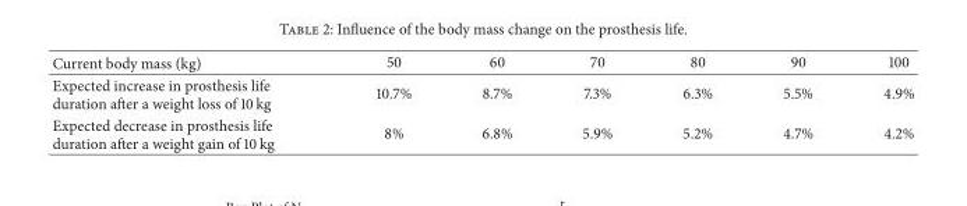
<table><thead><tr><td>Current body mass (kg)</td><td>50</td><td>60</td><td>70</td><td>80</td><td>90</td><td>100</td></tr></thead><tbody><tr><td>Expected increase in prosthesis life duration after a weight loss of 10 kg</td><td>10.7%</td><td>8.7%</td><td>7.3%</td><td>6.3%</td><td>5.5%</td><td>4.9%</td></tr><tr><td>Expected decrease in prosthesis life duration after a weight gain of 10 kg</td><td>8%</td><td>6.8%</td><td>5.9%</td><td>5.2%</td><td>4.7%</td><td>4.2%</td></tr></tbody></table>